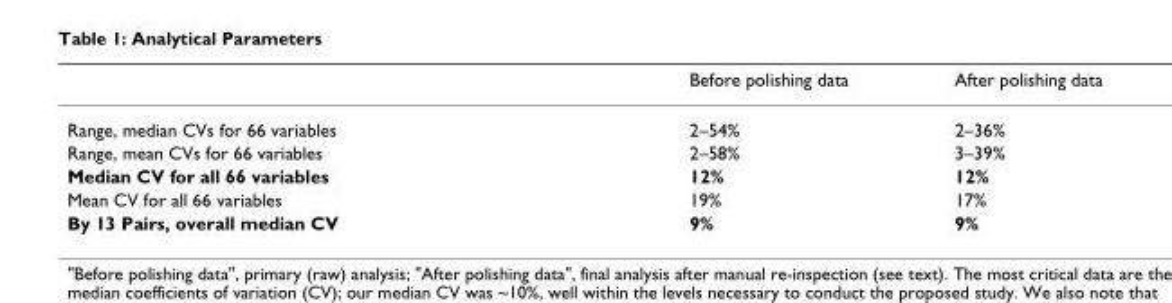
<table><thead><tr><td></td><td>Before polishing data</td><td>After polishing data</td></tr></thead><tbody><tr><td>Range, median CVs for 66 variables</td><td>2–54%</td><td>2–36%</td></tr><tr><td>Range, mean CVs for 66 variables</td><td>2–58%</td><td>3–39%</td></tr><tr><td>Median CV for all 66 variables</td><td>12%</td><td>12%</td></tr><tr><td>Mean CV for all 66 variables</td><td>19%</td><td>17%</td></tr><tr><td>By 13 Pairs, overall median CV</td><td>9%</td><td>9%</td></tr></tbody></table>